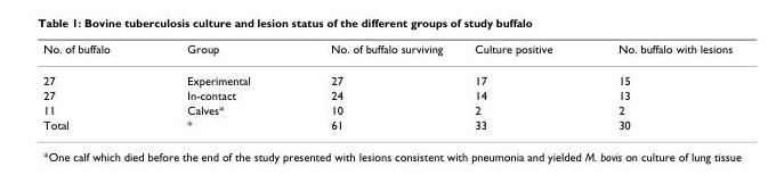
<table><thead><tr><td>No. of buffalo</td><td>Group</td><td>No. of buffalo surviving</td><td>Culture positive</td><td>No. buffalo with lesions</td></tr></thead><tbody><tr><td>27</td><td>Experimental</td><td>27</td><td>17</td><td>15</td></tr><tr><td>27</td><td>In-contact</td><td>24</td><td>14</td><td>13</td></tr><tr><td>11</td><td>Calves*</td><td>10</td><td>2</td><td>2</td></tr><tr><td>Total</td><td>*</td><td>61</td><td>33</td><td>30</td></tr></tbody></table>